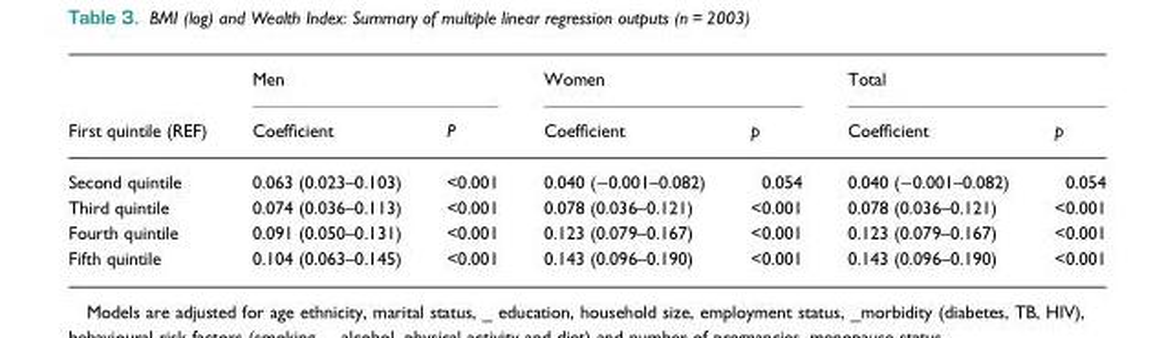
<table><thead><tr><td rowspan="2">First quintile (REF)</td><td colspan="2">Men</td><td colspan="2">Women</td><td colspan="2">Total</td></tr><tr><td>Coefficient</td><td>P</td><td>Coefficient</td><td>p</td><td>Coefficient</td><td>p</td></tr></thead><tbody><tr><td>Second quintile</td><td>0.063 (0.023–0.103)</td><td>&lt;0.001</td><td>0.040 (−0.001–0.082)</td><td>0.054</td><td>0.040 (−0.001–0.082)</td><td>0.054</td></tr><tr><td>Third quintile</td><td>0.074 (0.036–0.113)</td><td>&lt;0.001</td><td>0.078 (0.036–0.121)</td><td>&lt;0.001</td><td>0.078 (0.036–0.121)</td><td>&lt;0.001</td></tr><tr><td>Fourth quintile</td><td>0.091 (0.050–0.131)</td><td>&lt;0.001</td><td>0.123 (0.079–0.167)</td><td>&lt;0.001</td><td>0.123 (0.079–0.167)</td><td>&lt;0.001</td></tr><tr><td>Fifth quintile</td><td>0.104 (0.063–0.145)</td><td>&lt;0.001</td><td>0.143 (0.096–0.190)</td><td>&lt;0.001</td><td>0.143 (0.096–0.190)</td><td>&lt;0.001</td></tr></tbody></table>